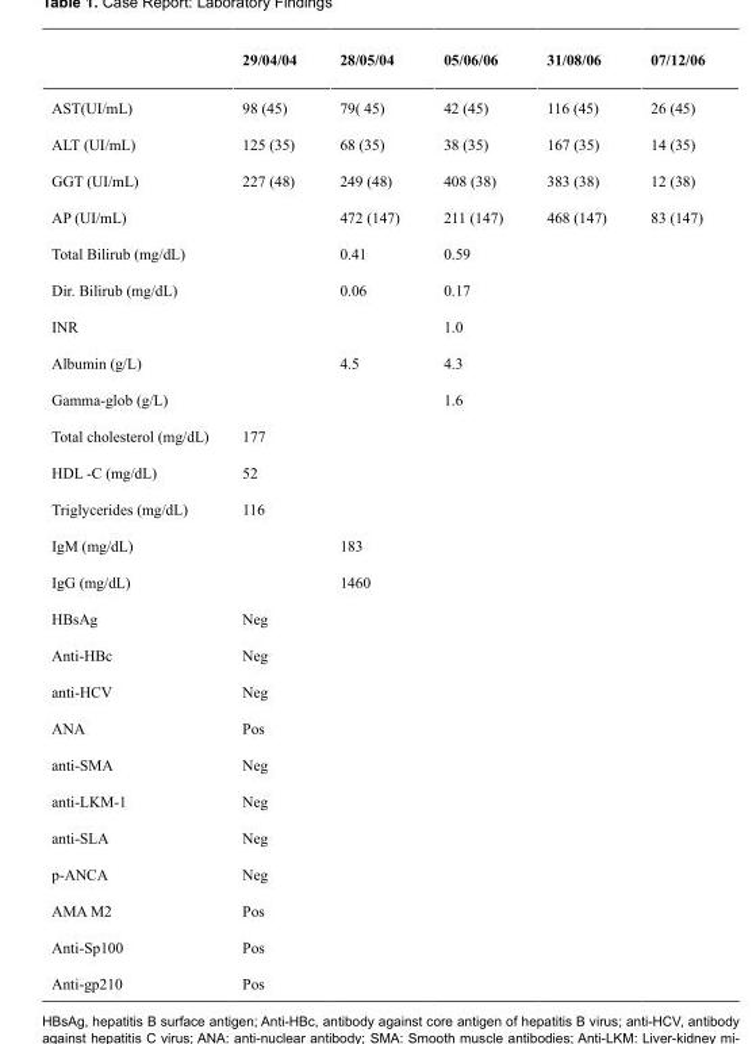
<table><thead><tr><td></td><td>29/04/04</td><td>28/05/04</td><td>05/06/06</td><td>31/08/06</td><td>07/12/06</td></tr></thead><tbody><tr><td>AST(UI/mL)</td><td>98 (45)</td><td>79( 45)</td><td>42 (45)</td><td>116 (45)</td><td>26 (45)</td></tr><tr><td>ALT (UI/mL)</td><td>125 (35)</td><td>68 (35)</td><td>38 (35)</td><td>167 (35)</td><td>14 (35)</td></tr><tr><td>GGT (UI/mL)</td><td>227 (48)</td><td>249 (48)</td><td>408 (38)</td><td>383 (38)</td><td>12 (38)</td></tr><tr><td>AP (UI/mL)</td><td></td><td>472 (147)</td><td>211 (147)</td><td>468 (147)</td><td>83 (147)</td></tr><tr><td>Total Bilirub (mg/dL)</td><td></td><td>0.41</td><td>0.59</td><td></td><td></td></tr><tr><td>Dir. Bilirub (mg/dL)</td><td></td><td>0.06</td><td>0.17</td><td></td><td></td></tr><tr><td>INR</td><td></td><td></td><td>1.0</td><td></td><td></td></tr><tr><td>Albumin (g/L)</td><td></td><td>4.5</td><td>4.3</td><td></td><td></td></tr><tr><td>Gamma-glob (g/L)</td><td></td><td></td><td>1.6</td><td></td><td></td></tr><tr><td>Total cholesterol (mg/dL)</td><td>177</td><td></td><td></td><td></td><td></td></tr><tr><td>HDL -C (mg/dL)</td><td>52</td><td></td><td></td><td></td><td></td></tr><tr><td>Triglycerides (mg/dL)</td><td>116</td><td></td><td></td><td></td><td></td></tr><tr><td>IgM (mg/dL)</td><td></td><td>183</td><td></td><td></td><td></td></tr><tr><td>IgG (mg/dL)</td><td></td><td>1460</td><td></td><td></td><td></td></tr><tr><td>HBsAg</td><td>Neg</td><td></td><td></td><td></td><td></td></tr><tr><td>Anti-HBc</td><td>Neg</td><td></td><td></td><td></td><td></td></tr><tr><td>anti-HCV</td><td>Neg</td><td></td><td></td><td></td><td></td></tr><tr><td>ANA</td><td>Pos</td><td></td><td></td><td></td><td></td></tr><tr><td>anti-SMA</td><td>Neg</td><td></td><td></td><td></td><td></td></tr><tr><td>anti-LKM-1</td><td>Neg</td><td></td><td></td><td></td><td></td></tr><tr><td>anti-SLA</td><td>Neg</td><td></td><td></td><td></td><td></td></tr><tr><td>p-ANCA</td><td>Neg</td><td></td><td></td><td></td><td></td></tr><tr><td>AMA M2</td><td>Pos</td><td></td><td></td><td></td><td></td></tr><tr><td>Anti-Sp100</td><td>Pos</td><td></td><td></td><td></td><td></td></tr><tr><td>Anti-gp210</td><td>Pos</td><td></td><td></td><td></td><td></td></tr></tbody></table>